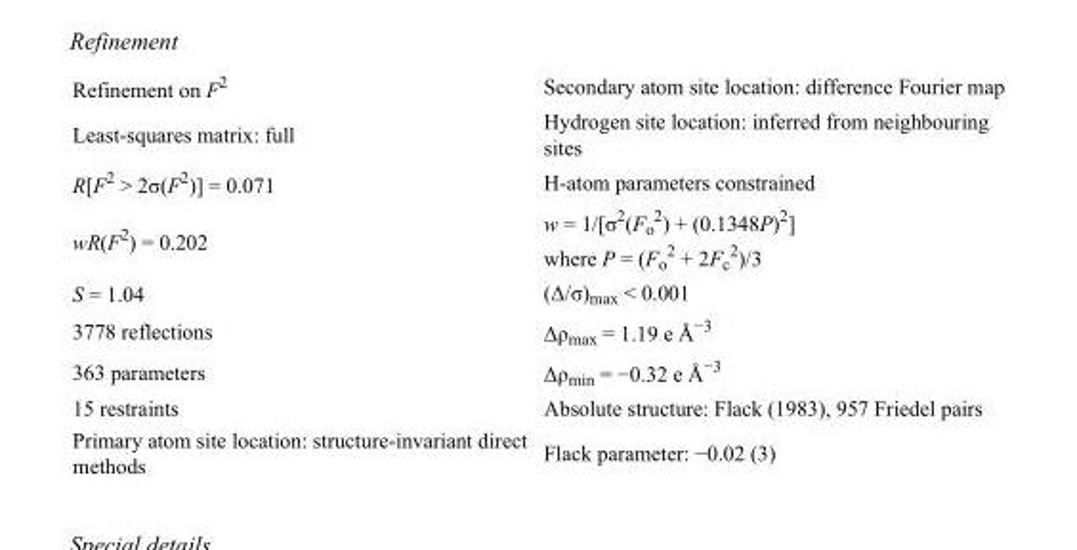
<table><tbody><tr><td>Refinement on F<sup>2</sup></td><td>Secondary atom site location: difference Fourier map</td></tr><tr><td>Least-squares matrix: full</td><td>Hydrogen site location: inferred from neighbouring sites</td></tr><tr><td>R[F<sup>2</sup> &gt; 2σ(F<sup>2</sup>)] = 0.071</td><td>H-atom parameters constrained</td></tr><tr><td>wR(F<sup>2</sup>) = 0.202</td><td>w = 1/[σ<sup>2</sup>(F<sub>o</sub> <sup>2</sup>) + (0.1348P)<sup>2</sup>] where P = (F<sub>o</sub> <sup>2</sup> + 2F<sub>c</sub> <sup>2</sup>)/3</td></tr><tr><td>S = 1.04</td><td>(Δ/σ)<sub>max</sub> &lt; 0.001</td></tr><tr><td>3778 reflections</td><td>Δρ<sub>max</sub> = 1.19 e Å<sup>−3</sup></td></tr><tr><td>363 parameters</td><td>Δρ<sub>min</sub> = −0.32 e Å<sup>−3</sup></td></tr><tr><td>15 restraints</td><td>Absolute structure: Flack (1983), 957 Friedel pairs</td></tr><tr><td>Primary atom site location: structure-invariant direct methods</td><td>Flack parameter: −0.02 (3)</td></tr></tbody></table>